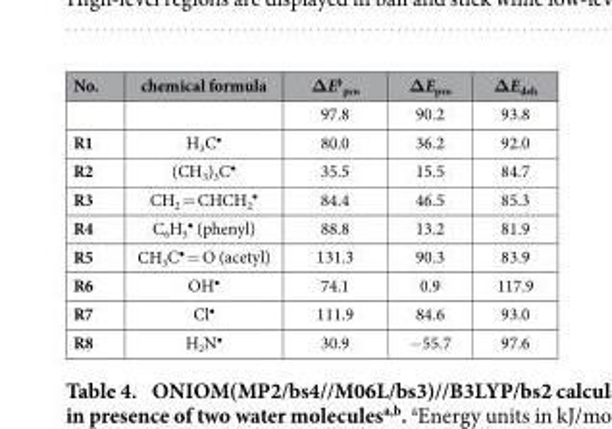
<table><thead><tr><td>No.</td><td>chemical formula</td><td>ΔE<sup>‡</sup> <sub>pro</sub></td><td>ΔE<sub>pro</sub></td><td>ΔE<sub>deh</sub></td></tr></thead><tbody><tr><td></td><td></td><td>97.8</td><td>90.2</td><td>93.8</td></tr><tr><td>R1</td><td>H<sub>3</sub>C<sup>•</sup></td><td>80.0</td><td>36.2</td><td>92.0</td></tr><tr><td>R2</td><td>(CH<sub>3</sub>)<sub>3</sub>C<sup>•</sup></td><td>35.5</td><td>15.5</td><td>84.7</td></tr><tr><td>R3</td><td>CH<sub>2</sub> = CHCH<sub>2</sub> <sup>•</sup></td><td>84.4</td><td>46.5</td><td>85.3</td></tr><tr><td>R4</td><td>C<sub>6</sub>H<sub>5</sub> <sup>•</sup> (phenyl)</td><td>88.8</td><td>13.2</td><td>81.9</td></tr><tr><td>R5</td><td>CH<sub>3</sub>C<sup>•</sup> = O (acetyl)</td><td>131.3</td><td>90.3</td><td>83.9</td></tr><tr><td>R6</td><td>OH<sup>•</sup></td><td>74.1</td><td>0.9</td><td>117.9</td></tr><tr><td>R7</td><td>Cl<sup>•</sup></td><td>111.9</td><td>84.6</td><td>93.0</td></tr><tr><td>R8</td><td>H<sub>2</sub>N<sup>•</sup></td><td>30.9</td><td>− 55.7</td><td>97.6</td></tr></tbody></table>